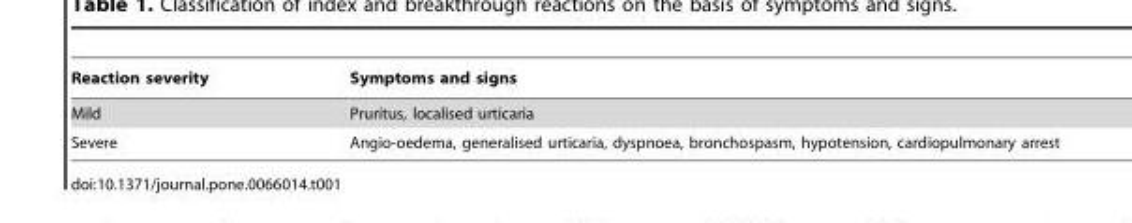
<table><thead><tr><td>Reaction severity</td><td>Symptoms and signs</td></tr></thead><tbody><tr><td>Mild</td><td>Pruritus, localised urticaria</td></tr><tr><td>Severe</td><td>Angio-oedema, generalised urticaria, dyspnoea, bronchospasm, hypotension, cardiopulmonary arrest</td></tr></tbody></table>